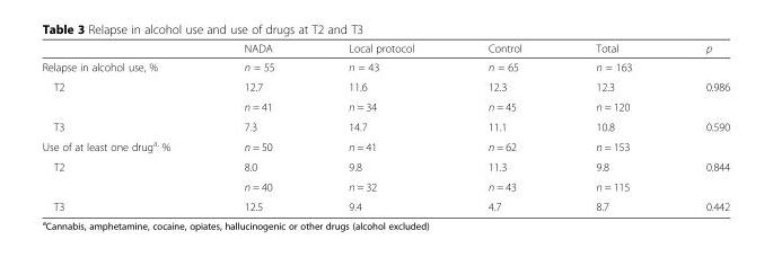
<table><thead><tr><td></td><td>NADA</td><td>Local protocol</td><td>Control</td><td>Total</td><td>p</td></tr></thead><tbody><tr><td>Relapse in alcohol use, %</td><td>n = 55</td><td>n = 43</td><td>n = 65</td><td>n = 163</td><td></td></tr><tr><td rowspan="2">T2</td><td>12.7</td><td>11.6</td><td>12.3</td><td>12.3</td><td>0.986</td></tr><tr><td>n = 41</td><td>n = 34</td><td>n = 45</td><td>n = 120</td><td></td></tr><tr><td>T3</td><td>7.3</td><td>14.7</td><td>11.1</td><td>10.8</td><td>0.590</td></tr><tr><td>Use of at least one drug<sup>a,</sup> %</td><td>n = 50</td><td>n = 41</td><td>n = 62</td><td>n = 153</td><td></td></tr><tr><td rowspan="2">T2</td><td>8.0</td><td>9.8</td><td>11.3</td><td>9.8</td><td>0.844</td></tr><tr><td>n = 40</td><td>n = 32</td><td>n = 43</td><td>n = 115</td><td></td></tr><tr><td>T3</td><td>12.5</td><td>9.4</td><td>4.7</td><td>8.7</td><td>0.442</td></tr></tbody></table>